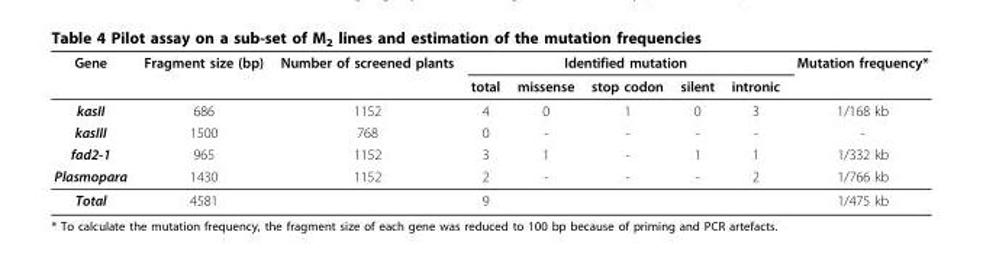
<table><thead><tr><td rowspan="2">Gene</td><td rowspan="2">Fragment size (bp)</td><td rowspan="2">Number of screened plants</td><td colspan="5">Identified mutation</td><td rowspan="2">Mutation frequency*</td></tr><tr><td>total</td><td>missense</td><td>stop codon</td><td>silent</td><td>intronic</td></tr></thead><tbody><tr><td>kasII</td><td>686</td><td>1152</td><td>4</td><td>0</td><td>1</td><td>0</td><td>3</td><td>1/168 kb</td></tr><tr><td>kasIII</td><td>1500</td><td>768</td><td>0</td><td>-</td><td>-</td><td>-</td><td>-</td><td>-</td></tr><tr><td>fad2-1</td><td>965</td><td>1152</td><td>3</td><td>1</td><td>-</td><td>1</td><td>1</td><td>1/332 kb</td></tr><tr><td>Plasmopara</td><td>1430</td><td>1152</td><td>2</td><td>-</td><td>-</td><td>-</td><td>2</td><td>1/766 kb</td></tr><tr><td>Total</td><td>4581</td><td></td><td>9</td><td></td><td></td><td></td><td></td><td>1/475 kb</td></tr></tbody></table>